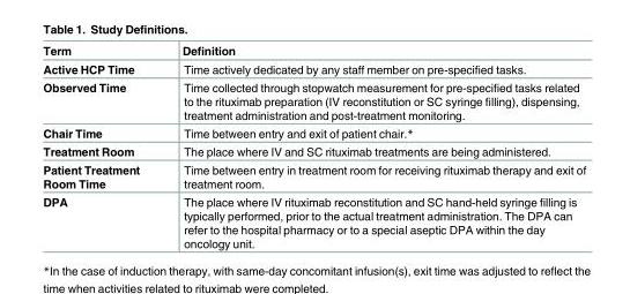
<table><thead><tr><td>Term</td><td>Definition</td></tr></thead><tbody><tr><td>Active HCP Time</td><td>Time actively dedicated by any staff member on pre-specified tasks.</td></tr><tr><td>Observed Time</td><td>Time collected through stopwatch measurement for pre-specified tasks related to the rituximab preparation (IV reconstitution or SC syringe filling), dispensing, treatment administration and post-treatment monitoring.</td></tr><tr><td>Chair Time</td><td>Time between entry and exit of patient chair.*</td></tr><tr><td>Treatment Room</td><td>The place where IV and SC rituximab treatments are being administered.</td></tr><tr><td>Patient Treatment Room Time</td><td>Time between entry in treatment room for receiving rituximab therapy and exit of treatment room.</td></tr><tr><td>DPA</td><td>The place where IV rituximab reconstitution and SC hand-held syringe filling is typically performed, prior to the actual treatment administration. The DPA can refer to the hospital pharmacy or to a special aseptic DPA within the day oncology unit.</td></tr></tbody></table>